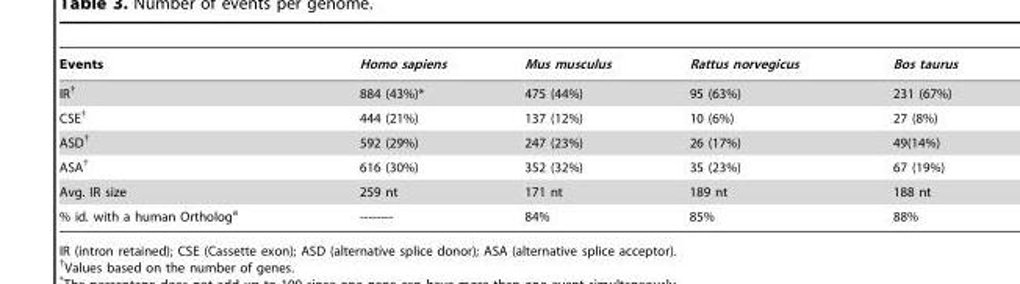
<table><thead><tr><td>Events</td><td>Homo sapiens</td><td>Mus musculus</td><td>Rattus norvegicus</td><td>Bos taurus</td></tr></thead><tbody><tr><td>IR†</td><td>884 (43%)*</td><td>475 (44%)</td><td>95 (63%)</td><td>231 (67%)</td></tr><tr><td>CSE†</td><td>444 (21%)</td><td>137 (12%)</td><td>10 (6%)</td><td>27 (8%)</td></tr><tr><td>ASD†</td><td>592 (29%)</td><td>247 (23%)</td><td>26 (17%)</td><td>49(14%)</td></tr><tr><td>ASA†</td><td>616 (30%)</td><td>352 (32%)</td><td>35 (23%)</td><td>67 (19%)</td></tr><tr><td>Avg. IR size</td><td>259 nt</td><td>171 nt</td><td>189 nt</td><td>188 nt</td></tr><tr><td>% id. with a human Ortholog<sup>a</sup></td><td>--------</td><td>84%</td><td>85%</td><td>88%</td></tr></tbody></table>